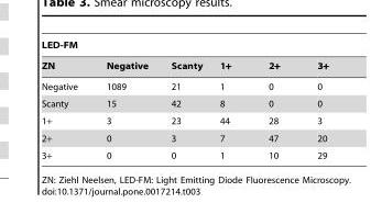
<table><thead><tr><td colspan="6">LED-FM</td></tr><tr><td>ZN</td><td>Negative</td><td>Scanty</td><td>1+</td><td>2+</td><td>3+</td></tr></thead><tbody><tr><td>Negative</td><td>1089</td><td>21</td><td>1</td><td>0</td><td>0</td></tr><tr><td>Scanty</td><td>15</td><td>42</td><td>8</td><td>0</td><td>0</td></tr><tr><td>1+</td><td>3</td><td>23</td><td>44</td><td>28</td><td>3</td></tr><tr><td>2+</td><td>0</td><td>3</td><td>7</td><td>47</td><td>20</td></tr><tr><td>3+</td><td>0</td><td>0</td><td>1</td><td>10</td><td>29</td></tr></tbody></table>